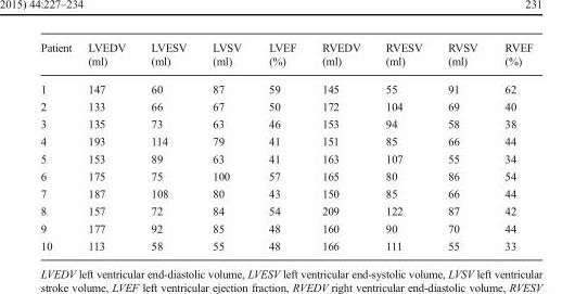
<table><thead><tr><td>Patient</td><td>LVEDV (ml)</td><td>LVESV (ml)</td><td>LVSV (ml)</td><td>LVEF (%)</td><td>RVEDV (ml)</td><td>RVESV (ml)</td><td>RVSV (ml)</td><td>RVEF (%)</td></tr></thead><tbody><tr><td>1</td><td>147</td><td>60</td><td>87</td><td>59</td><td>145</td><td>55</td><td>91</td><td>62</td></tr><tr><td>2</td><td>133</td><td>66</td><td>67</td><td>50</td><td>172</td><td>104</td><td>69</td><td>40</td></tr><tr><td>3</td><td>135</td><td>73</td><td>63</td><td>46</td><td>153</td><td>94</td><td>58</td><td>38</td></tr><tr><td>4</td><td>193</td><td>114</td><td>79</td><td>41</td><td>151</td><td>85</td><td>66</td><td>44</td></tr><tr><td>5</td><td>153</td><td>89</td><td>63</td><td>41</td><td>163</td><td>107</td><td>55</td><td>34</td></tr><tr><td>6</td><td>175</td><td>75</td><td>100</td><td>57</td><td>165</td><td>80</td><td>86</td><td>54</td></tr><tr><td>7</td><td>187</td><td>108</td><td>80</td><td>43</td><td>150</td><td>85</td><td>66</td><td>44</td></tr><tr><td>8</td><td>157</td><td>72</td><td>84</td><td>54</td><td>209</td><td>122</td><td>87</td><td>42</td></tr><tr><td>9</td><td>177</td><td>92</td><td>85</td><td>48</td><td>160</td><td>90</td><td>70</td><td>44</td></tr><tr><td>10</td><td>113</td><td>58</td><td>55</td><td>48</td><td>166</td><td>111</td><td>55</td><td>33</td></tr></tbody></table>